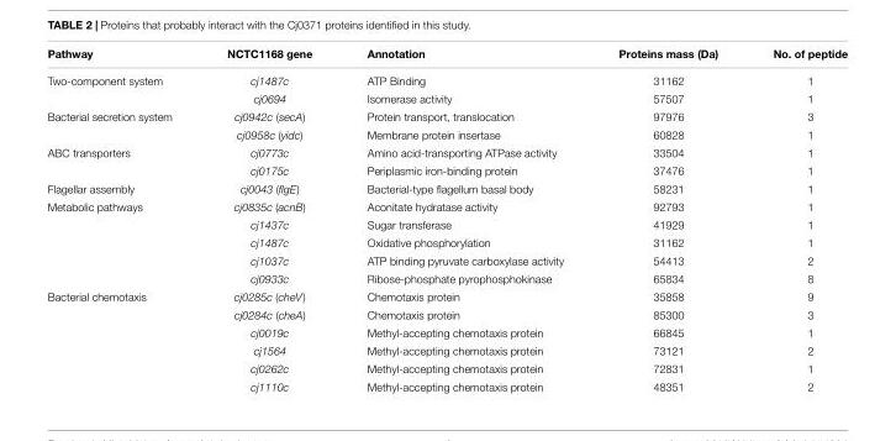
<table><thead><tr><td>Pathway</td><td>NCTC1168 gene</td><td>Annotation</td><td>Proteins mass (Da)</td><td>No. of peptide</td></tr></thead><tbody><tr><td rowspan="2">Two-component system</td><td>cj1487c</td><td>ATP Binding</td><td>31162</td><td>1</td></tr><tr><td>cj0694</td><td>Isomerase activity</td><td>57507</td><td>1</td></tr><tr><td rowspan="2">Bacterial secretion system</td><td>cj0942c (secA)</td><td>Protein transport, translocation</td><td>97976</td><td>3</td></tr><tr><td>cj0958c (yidc)</td><td>Membrane protein insertase</td><td>60828</td><td>1</td></tr><tr><td rowspan="2">ABC transporters</td><td>cj0773c</td><td>Amino acid-transporting ATPase activity</td><td>33504</td><td>1</td></tr><tr><td>cj0175c</td><td>Periplasmic iron-binding protein</td><td>37476</td><td>1</td></tr><tr><td>Flagellar assembly</td><td>cj0043 (flgE)</td><td>Bacterial-type flagellum basal body</td><td>58231</td><td>1</td></tr><tr><td rowspan="5">Metabolic pathways</td><td>cj0835c (acnB)</td><td>Aconitate hydratase activity</td><td>92793</td><td>1</td></tr><tr><td>cj1437c</td><td>Sugar transferase</td><td>41929</td><td>1</td></tr><tr><td>cj1487c</td><td>Oxidative phosphorylation</td><td>31162</td><td>1</td></tr><tr><td>cj1037c</td><td>ATP binding pyruvate carboxylase activity</td><td>54413</td><td>2</td></tr><tr><td>cj0933c</td><td>Ribose-phosphate pyrophosphokinase</td><td>65834</td><td>8</td></tr><tr><td rowspan="6">Bacterial chemotaxis</td><td>cj0285c (cheV)</td><td>Chemotaxis protein</td><td>35858</td><td>9</td></tr><tr><td>cj0284c (cheA)</td><td>Chemotaxis protein</td><td>85300</td><td>3</td></tr><tr><td>cj0019c</td><td>Methyl-accepting chemotaxis protein</td><td>66845</td><td>1</td></tr><tr><td>cj1564</td><td>Methyl-accepting chemotaxis protein</td><td>73121</td><td>2</td></tr><tr><td>cj0262c</td><td>Methyl-accepting chemotaxis protein</td><td>72831</td><td>1</td></tr><tr><td>cj1110c</td><td>Methyl-accepting chemotaxis protein</td><td>48351</td><td>2</td></tr></tbody></table>